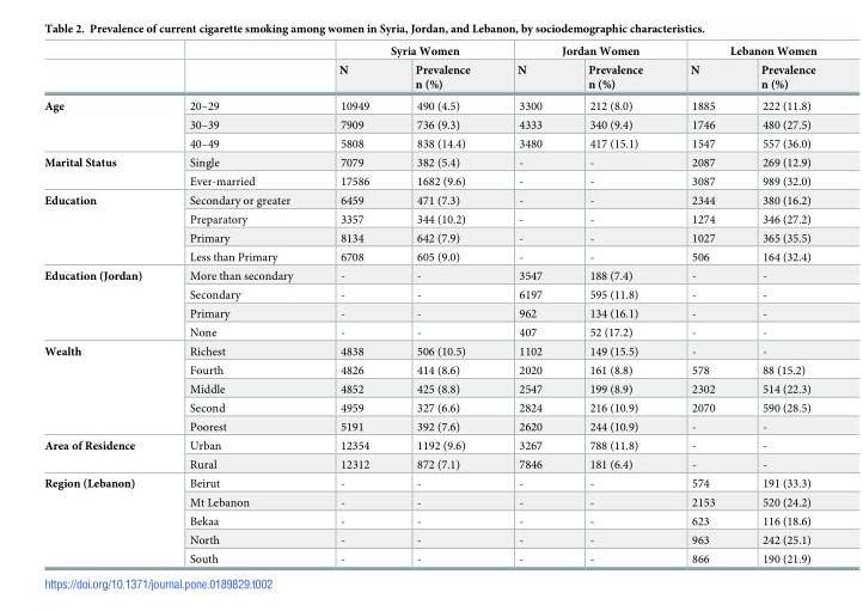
<table><thead><tr><td rowspan="2"></td><td rowspan="2"></td><td colspan="2">Syria Women</td><td colspan="2">Jordan Women</td><td colspan="2">Lebanon Women</td></tr><tr><td>N</td><td>Prevalence n (%)</td><td>N</td><td>Prevalence n (%)</td><td>N</td><td>Prevalence n (%)</td></tr></thead><tbody><tr><td rowspan="3">Age</td><td>20–29</td><td>10949</td><td>490 (4.5)</td><td>3300</td><td>212 (8.0)</td><td>1885</td><td>222 (11.8)</td></tr><tr><td>30–39</td><td>7909</td><td>736 (9.3)</td><td>4333</td><td>340 (9.4)</td><td>1746</td><td>480 (27.5)</td></tr><tr><td>40–49</td><td>5808</td><td>838 (14.4)</td><td>3480</td><td>417 (15.1)</td><td>1547</td><td>557 (36.0)</td></tr><tr><td rowspan="2">Marital Status</td><td>Single</td><td>7079</td><td>382 (5.4)</td><td>-</td><td>-</td><td>2087</td><td>269 (12.9)</td></tr><tr><td>Ever-married</td><td>17586</td><td>1682 (9.6)</td><td>-</td><td>-</td><td>3087</td><td>989 (32.0)</td></tr><tr><td rowspan="4">Education</td><td>Secondary or greater</td><td>6459</td><td>471 (7.3)</td><td>-</td><td>-</td><td>2344</td><td>380 (16.2)</td></tr><tr><td>Preparatory</td><td>3357</td><td>344 (10.2)</td><td>-</td><td>-</td><td>1274</td><td>346 (27.2)</td></tr><tr><td>Primary</td><td>8134</td><td>642 (7.9)</td><td>-</td><td>-</td><td>1027</td><td>365 (35.5)</td></tr><tr><td>Less than Primary</td><td>6708</td><td>605 (9.0)</td><td>-</td><td>-</td><td>506</td><td>164 (32.4)</td></tr><tr><td rowspan="4">Education (Jordan)</td><td>More than secondary</td><td>-</td><td>-</td><td>3547</td><td>188 (7.4)</td><td>-</td><td>-</td></tr><tr><td>Secondary</td><td>-</td><td>-</td><td>6197</td><td>595 (11.8)</td><td>-</td><td>-</td></tr><tr><td>Primary</td><td>-</td><td>-</td><td>962</td><td>134 (16.1)</td><td>-</td><td>-</td></tr><tr><td>None</td><td>-</td><td>-</td><td>407</td><td>52 (17.2)</td><td>-</td><td>-</td></tr><tr><td rowspan="5">Wealth</td><td>Richest</td><td>4838</td><td>506 (10.5)</td><td>1102</td><td>149 (15.5)</td><td>-</td><td>-</td></tr><tr><td>Fourth</td><td>4826</td><td>414 (8.6)</td><td>2020</td><td>161 (8.8)</td><td>578</td><td>88 (15.2)</td></tr><tr><td>Middle</td><td>4852</td><td>425 (8.8)</td><td>2547</td><td>199 (8.9)</td><td>2302</td><td>514 (22.3)</td></tr><tr><td>Second</td><td>4959</td><td>327 (6.6)</td><td>2824</td><td>216 (10.9)</td><td>2070</td><td>590 (28.5)</td></tr><tr><td>Poorest</td><td>5191</td><td>392 (7.6)</td><td>2620</td><td>244 (10.9)</td><td>-</td><td>-</td></tr><tr><td rowspan="2">Area of Residence</td><td>Urban</td><td>12354</td><td>1192 (9.6)</td><td>3267</td><td>788 (11.8)</td><td>-</td><td>-</td></tr><tr><td>Rural</td><td>12312</td><td>872 (7.1)</td><td>7846</td><td>181 (6.4)</td><td>-</td><td>-</td></tr><tr><td rowspan="5">Region (Lebanon)</td><td>Beirut</td><td>-</td><td>-</td><td>-</td><td>-</td><td>574</td><td>191 (33.3)</td></tr><tr><td>Mt Lebanon</td><td>-</td><td>-</td><td>-</td><td>-</td><td>2153</td><td>520 (24.2)</td></tr><tr><td>Bekaa</td><td>-</td><td>-</td><td>-</td><td>-</td><td>623</td><td>116 (18.6)</td></tr><tr><td>North</td><td>-</td><td>-</td><td>-</td><td>-</td><td>963</td><td>242 (25.1)</td></tr><tr><td>South</td><td>-</td><td>-</td><td>-</td><td>-</td><td>866</td><td>190 (21.9)</td></tr></tbody></table>